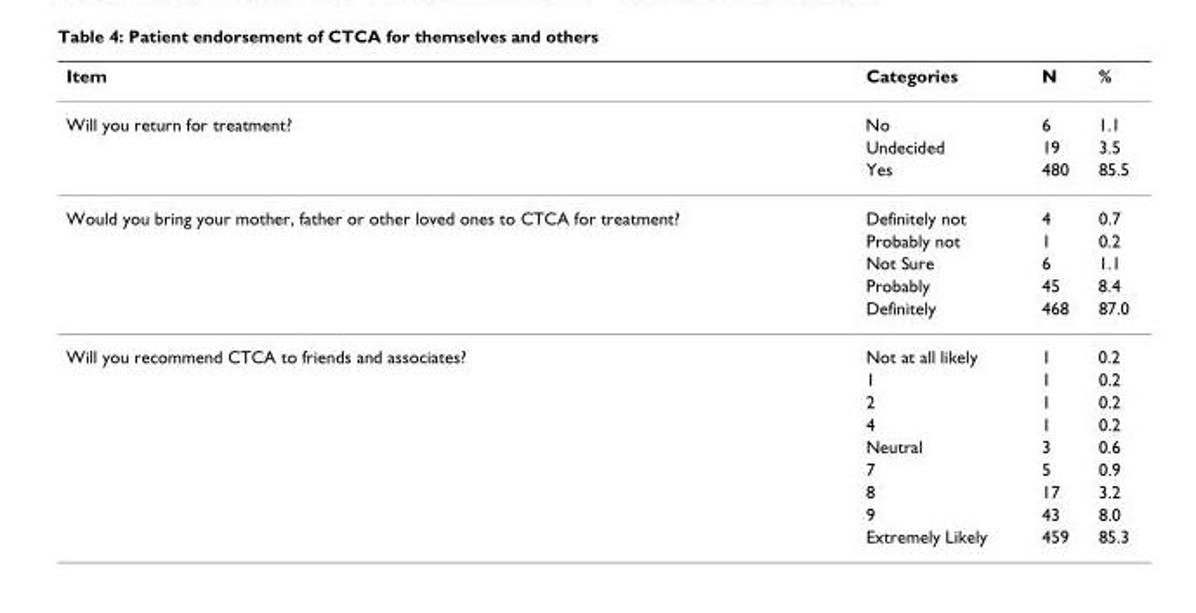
<table><thead><tr><td>Item</td><td>Categories</td><td>N</td><td>%</td></tr></thead><tbody><tr><td rowspan="3">Will you return for treatment?</td><td>No</td><td>6</td><td>1.1</td></tr><tr><td>Undecided</td><td>19</td><td>3.5</td></tr><tr><td>Yes</td><td>480</td><td>85.5</td></tr><tr><td rowspan="5">Would you bring your mother, father or other loved ones to CTCA for treatment?</td><td>Definitely not</td><td>4</td><td>0.7</td></tr><tr><td>Probably not</td><td>1</td><td>0.2</td></tr><tr><td>Not Sure</td><td>6</td><td>1.1</td></tr><tr><td>Probably</td><td>45</td><td>8.4</td></tr><tr><td>Definitely</td><td>468</td><td>87.0</td></tr><tr><td rowspan="9">Will you recommend CTCA to friends and associates?</td><td>Not at all likely</td><td>1</td><td>0.2</td></tr><tr><td>1</td><td>1</td><td>0.2</td></tr><tr><td>2</td><td>1</td><td>0.2</td></tr><tr><td>4</td><td>1</td><td>0.2</td></tr><tr><td>Neutral</td><td>3</td><td>0.6</td></tr><tr><td>7</td><td>5</td><td>0.9</td></tr><tr><td>8</td><td>17</td><td>3.2</td></tr><tr><td>9</td><td>43</td><td>8.0</td></tr><tr><td>Extremely Likely</td><td>459</td><td>85.3</td></tr></tbody></table>